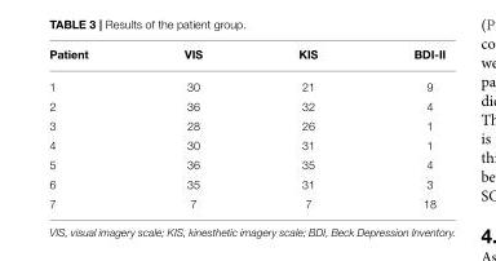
<table><thead><tr><td>Patient</td><td>VIS</td><td>KIS</td><td>BDI-II</td></tr></thead><tbody><tr><td>1</td><td>30</td><td>21</td><td>9</td></tr><tr><td>2</td><td>36</td><td>32</td><td>4</td></tr><tr><td>3</td><td>28</td><td>26</td><td>1</td></tr><tr><td>4</td><td>30</td><td>31</td><td>1</td></tr><tr><td>5</td><td>36</td><td>35</td><td>4</td></tr><tr><td>6</td><td>35</td><td>31</td><td>3</td></tr><tr><td>7</td><td>7</td><td>7</td><td>18</td></tr></tbody></table>